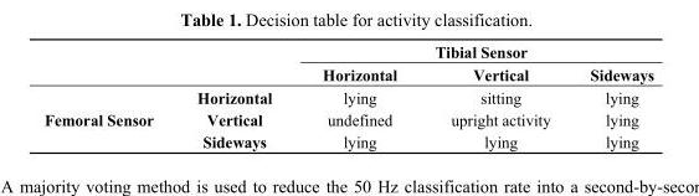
<table><thead><tr><td rowspan="2"></td><td rowspan="2"></td><td colspan="3">Tibial Sensor</td></tr><tr><td>Horizontal</td><td>Vertical</td><td>Sideways</td></tr></thead><tbody><tr><td rowspan="3">Femoral Sensor</td><td>Horizontal</td><td>lying</td><td>sitting</td><td>lying</td></tr><tr><td>Vertical</td><td>undefined</td><td>upright activity</td><td>lying</td></tr><tr><td>Sideways</td><td>lying</td><td>lying</td><td>lying</td></tr></tbody></table>